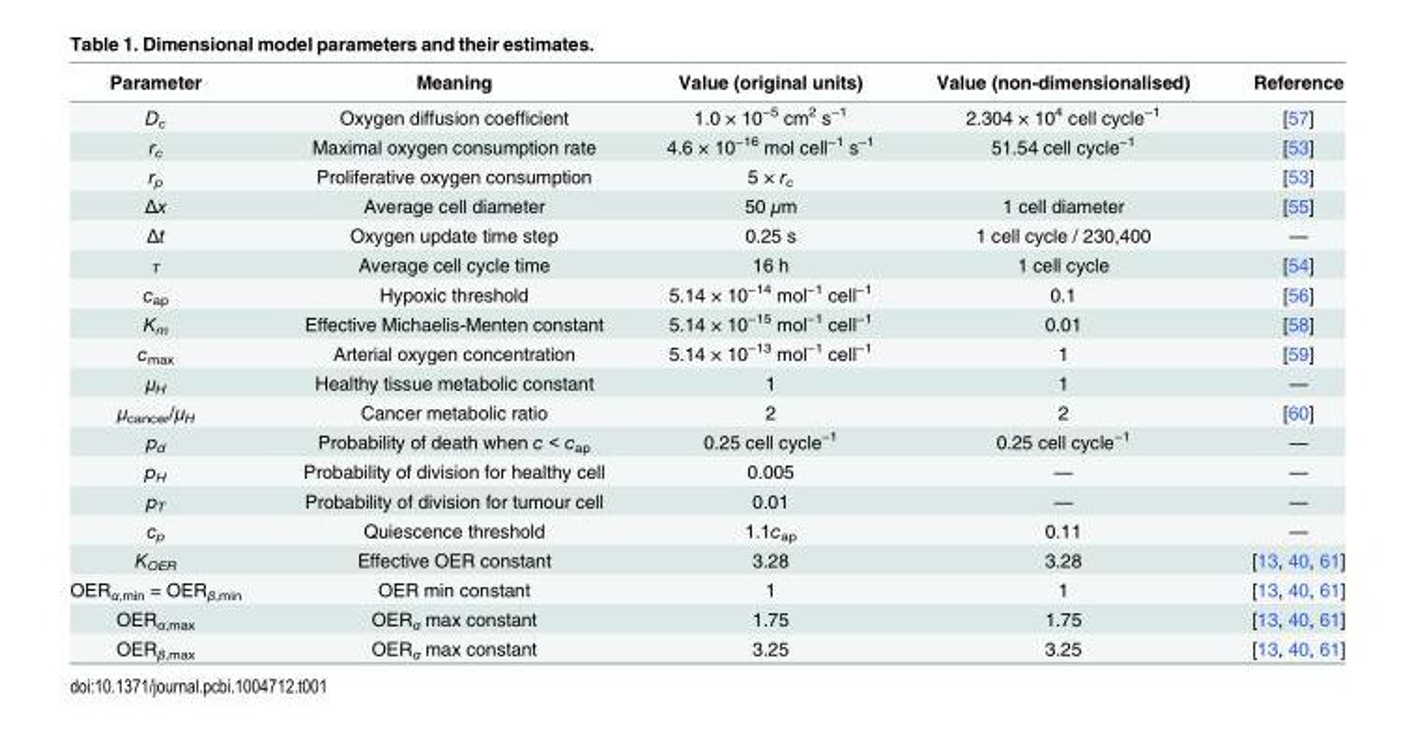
<table><thead><tr><td>Parameter</td><td>Meaning</td><td>Value (original units)</td><td>Value (non-dimensionalised)</td><td>Reference</td></tr></thead><tbody><tr><td>D<sub>c</sub></td><td>Oxygen diffusion coefficient</td><td>1.0 × 10<sup>−5</sup> cm<sup>2</sup> s<sup>−1</sup></td><td>2.304 × 10<sup>4</sup> cell cycle<sup>−1</sup></td><td>[57]</td></tr><tr><td>r<sub>c</sub></td><td>Maximal oxygen consumption rate</td><td>4.6 × 10<sup>−16</sup> mol cell<sup>−1</sup> s<sup>−1</sup></td><td>51.54 cell cycle<sup>−1</sup></td><td>[53]</td></tr><tr><td>r<sub>p</sub></td><td>Proliferative oxygen consumption</td><td>5 × r<sub>c</sub></td><td></td><td>[53]</td></tr><tr><td>Δx</td><td>Average cell diameter</td><td>50 μm</td><td>1 cell diameter</td><td>[55]</td></tr><tr><td>Δt</td><td>Oxygen update time step</td><td>0.25 s</td><td>1 cell cycle / 230,400</td><td>—</td></tr><tr><td>τ</td><td>Average cell cycle time</td><td>16 h</td><td>1 cell cycle</td><td>[54]</td></tr><tr><td>c<sub>ap</sub></td><td>Hypoxic threshold</td><td>5.14 × 10<sup>−14</sup> mol<sup>−1</sup> cell<sup>−1</sup></td><td>0.1</td><td>[56]</td></tr><tr><td>K<sub>m</sub></td><td>Effective Michaelis-Menten constant</td><td>5.14 × 10<sup>−15</sup> mol<sup>−1</sup> cell<sup>−1</sup></td><td>0.01</td><td>[58]</td></tr><tr><td>c<sub>max</sub></td><td>Arterial oxygen concentration</td><td>5.14 × 10<sup>−13</sup> mol<sup>−1</sup> cell<sup>−1</sup></td><td>1</td><td>[59]</td></tr><tr><td>μ<sub>H</sub></td><td>Healthy tissue metabolic constant</td><td>1</td><td>1</td><td>—</td></tr><tr><td>μ<sub>cancer</sub>/μ<sub>H</sub></td><td>Cancer metabolic ratio</td><td>2</td><td>2</td><td>[60]</td></tr><tr><td>p<sub>d</sub></td><td>Probability of death when c &lt; c<sub>ap</sub></td><td>0.25 cell cycle<sup>−1</sup></td><td>0.25 cell cycle<sup>−1</sup></td><td>—</td></tr><tr><td>p<sub>H</sub></td><td>Probability of division for healthy cell</td><td>0.005</td><td>—</td><td>—</td></tr><tr><td>p<sub>T</sub></td><td>Probability of division for tumour cell</td><td>0.01</td><td>—</td><td>—</td></tr><tr><td>c<sub>p</sub></td><td>Quiescence threshold</td><td>1.1c<sub>ap</sub></td><td>0.11</td><td>—</td></tr><tr><td>K<sub>OER</sub></td><td>Effective OER constant</td><td>3.28</td><td>3.28</td><td>[13, 40, 61]</td></tr><tr><td>OER<sub>α,min</sub> = OER<sub>β,min</sub></td><td>OER min constant</td><td>1</td><td>1</td><td>[13, 40, 61]</td></tr><tr><td>OER<sub>α,max</sub></td><td>OER<sub>α</sub> max constant</td><td>1.75</td><td>1.75</td><td>[13, 40, 61]</td></tr><tr><td>OER<sub>β,max</sub></td><td>OER<sub>α</sub> max constant</td><td>3.25</td><td>3.25</td><td>[13, 40, 61]</td></tr></tbody></table>